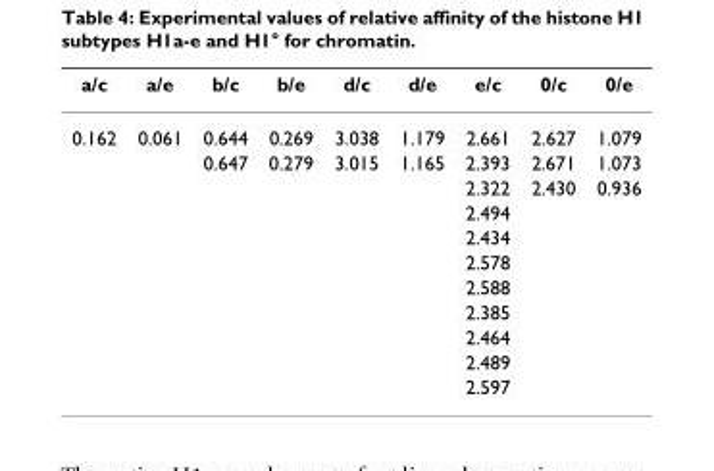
<table><thead><tr><td>a/c</td><td>a/e</td><td>b/c</td><td>b/e</td><td>d/c</td><td>d/e</td><td>e/c</td><td>0/c</td><td>0/e</td></tr></thead><tbody><tr><td rowspan="11">0.162</td><td>0.061</td><td>0.644</td><td>0.269</td><td>3.038</td><td>1.179</td><td>2.661</td><td>2.627</td><td>1.079</td></tr><tr><td></td><td>0.647</td><td>0.279</td><td>3.015</td><td>1.165</td><td>2.393</td><td>2.671</td><td>1.073</td></tr><tr><td></td><td></td><td></td><td></td><td></td><td>2.322</td><td>2.430</td><td>0.936</td></tr><tr><td></td><td></td><td></td><td></td><td></td><td>2.494</td><td></td><td></td></tr><tr><td></td><td></td><td></td><td></td><td></td><td>2.434</td><td></td><td></td></tr><tr><td></td><td></td><td></td><td></td><td></td><td>2.578</td><td></td><td></td></tr><tr><td></td><td></td><td></td><td></td><td></td><td>2.588</td><td></td><td></td></tr><tr><td></td><td></td><td></td><td></td><td></td><td>2.385</td><td></td><td></td></tr><tr><td></td><td></td><td></td><td></td><td></td><td>2.464</td><td></td><td></td></tr><tr><td></td><td></td><td></td><td></td><td></td><td>2.489</td><td></td><td></td></tr><tr><td></td><td></td><td></td><td></td><td></td><td>2.597</td><td></td><td></td></tr></tbody></table>